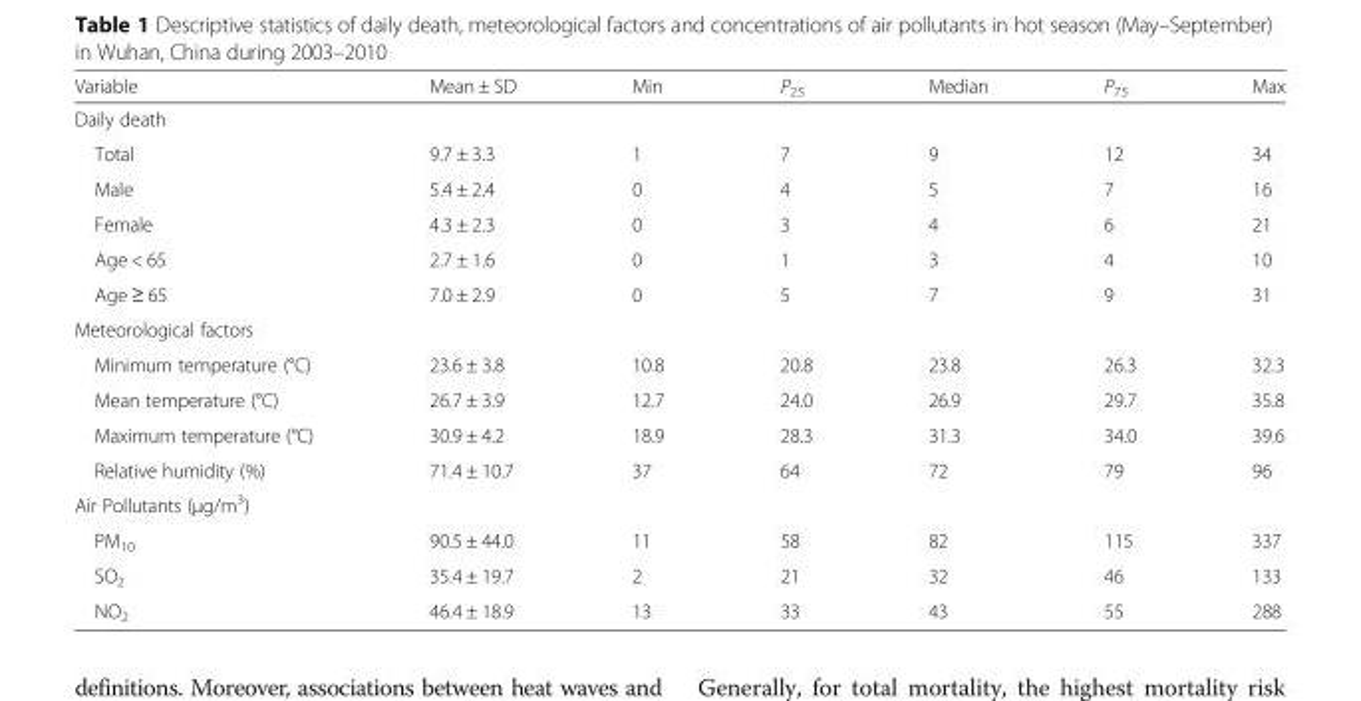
<table><thead><tr><td>Variable</td><td>Mean ± SD</td><td>Min</td><td>P<sub>25</sub></td><td>Median</td><td>P<sub>75</sub></td><td>Max</td></tr></thead><tbody><tr><td colspan="7">Daily death</td></tr><tr><td>Total</td><td>9.7 ± 3.3</td><td>1</td><td>7</td><td>9</td><td>12</td><td>34</td></tr><tr><td>Male</td><td>5.4 ± 2.4</td><td>0</td><td>4</td><td>5</td><td>7</td><td>16</td></tr><tr><td>Female</td><td>4.3 ± 2.3</td><td>0</td><td>3</td><td>4</td><td>6</td><td>21</td></tr><tr><td>Age &lt; 65</td><td>2.7 ± 1.6</td><td>0</td><td>1</td><td>3</td><td>4</td><td>10</td></tr><tr><td>Age ≥ 65</td><td>7.0 ± 2.9</td><td>0</td><td>5</td><td>7</td><td>9</td><td>31</td></tr><tr><td colspan="7">Meteorological factors</td></tr><tr><td>Minimum temperature (°C)</td><td>23.6 ± 3.8</td><td>10.8</td><td>20.8</td><td>23.8</td><td>26.3</td><td>32.3</td></tr><tr><td>Mean temperature (°C)</td><td>26.7 ± 3.9</td><td>12.7</td><td>24.0</td><td>26.9</td><td>29.7</td><td>35.8</td></tr><tr><td>Maximum temperature (°C)</td><td>30.9 ± 4.2</td><td>18.9</td><td>28.3</td><td>31.3</td><td>34.0</td><td>39.6</td></tr><tr><td>Relative humidity (%)</td><td>71.4 ± 10.7</td><td>37</td><td>64</td><td>72</td><td>79</td><td>96</td></tr><tr><td colspan="7">Air Pollutants (μg/m<sup>3</sup>)</td></tr><tr><td>PM<sub>10</sub></td><td>90.5 ± 44.0</td><td>11</td><td>58</td><td>82</td><td>115</td><td>337</td></tr><tr><td>SO<sub>2</sub></td><td>35.4 ± 19.7</td><td>2</td><td>21</td><td>32</td><td>46</td><td>133</td></tr><tr><td>NO<sub>2</sub></td><td>46.4 ± 18.9</td><td>13</td><td>33</td><td>43</td><td>55</td><td>288</td></tr></tbody></table>